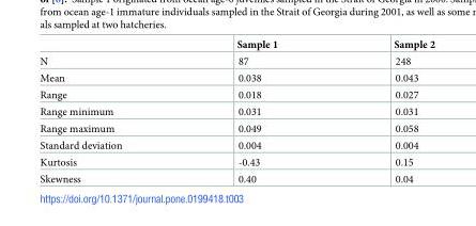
<table><thead><tr><td></td><td>Sample 1</td><td>Sample 2</td></tr></thead><tbody><tr><td>N</td><td>87</td><td>248</td></tr><tr><td>Mean</td><td>0.038</td><td>0.043</td></tr><tr><td>Range</td><td>0.018</td><td>0.027</td></tr><tr><td>Range minimum</td><td>0.031</td><td>0.031</td></tr><tr><td>Range maximum</td><td>0.049</td><td>0.058</td></tr><tr><td>Standard deviation</td><td>0.004</td><td>0.004</td></tr><tr><td>Kurtosis</td><td>-0.43</td><td>0.15</td></tr><tr><td>Skewness</td><td>0.40</td><td>0.04</td></tr></tbody></table>